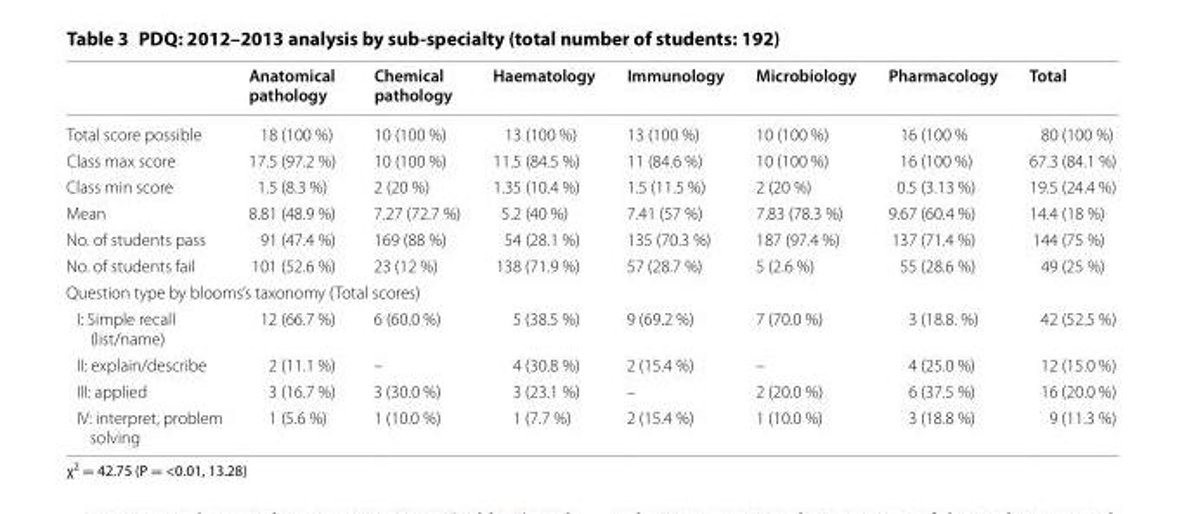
<table><thead><tr><td></td><td>Anatomical pathology</td><td>Chemical pathology</td><td>Haematology</td><td>Immunology</td><td>Microbiology</td><td>Pharmacology</td><td>Total</td></tr></thead><tbody><tr><td>Total score possible</td><td>18 (100 %)</td><td>10 (100 %)</td><td>13 (100 %)</td><td>13 (100 %)</td><td>10 (100 %)</td><td>16 (100 %</td><td>80 (100 %)</td></tr><tr><td>Class max score</td><td>17.5 (97.2 %)</td><td>10 (100 %)</td><td>11.5 (84.5 %)</td><td>11 (84.6 %)</td><td>10 (100 %)</td><td>16 (100 %)</td><td>67.3 (84.1 %)</td></tr><tr><td>Class min score</td><td>1.5 (8.3 %)</td><td>2 (20 %)</td><td>1.35 (10.4 %)</td><td>1.5 (11.5 %)</td><td>2 (20 %)</td><td>0.5 (3.13 %)</td><td>19.5 (24.4 %)</td></tr><tr><td>Mean</td><td>8.81 (48.9 %)</td><td>7.27 (72.7 %)</td><td>5.2 (40 %)</td><td>7.41 (57 %)</td><td>7.83 (78.3 %)</td><td>9.67 (60.4 %)</td><td>14.4 (18 %)</td></tr><tr><td>No. of students pass</td><td>91 (47.4 %)</td><td>169 (88 %)</td><td>54 (28.1 %)</td><td>135 (70.3 %)</td><td>187 (97.4 %)</td><td>137 (71.4 %)</td><td>144 (75 %)</td></tr><tr><td>No. of students fail</td><td>101 (52.6 %)</td><td>23 (12 %)</td><td>138 (71.9 %)</td><td>57 (28.7 %)</td><td>5 (2.6 %)</td><td>55 (28.6 %)</td><td>49 (25 %)</td></tr><tr><td colspan="8">Question type by blooms’s taxonomy (Total scores)</td></tr><tr><td>I: Simple recall (list/name)</td><td>12 (66.7 %)</td><td>6 (60.0 %)</td><td>5 (38.5 %)</td><td>9 (69.2 %)</td><td>7 (70.0 %)</td><td>3 (18.8. %)</td><td>42 (52.5 %)</td></tr><tr><td>II: explain/describe</td><td>2 (11.1 %)</td><td>–</td><td>4 (30.8 %)</td><td>2 (15.4 %)</td><td>–</td><td>4 (25.0 %)</td><td>12 (15.0 %)</td></tr><tr><td>III: applied</td><td>3 (16.7 %)</td><td>3 (30.0 %)</td><td>3 (23.1 %)</td><td>–</td><td>2 (20.0 %)</td><td>6 (37.5 %)</td><td>16 (20.0 %)</td></tr><tr><td>IV: interpret, problem solving</td><td>1 (5.6 %)</td><td>1 (10.0 %)</td><td>1 (7.7 %)</td><td>2 (15.4 %)</td><td>1 (10.0 %)</td><td>3 (18.8 %)</td><td>9 (11.3 %)</td></tr></tbody></table>